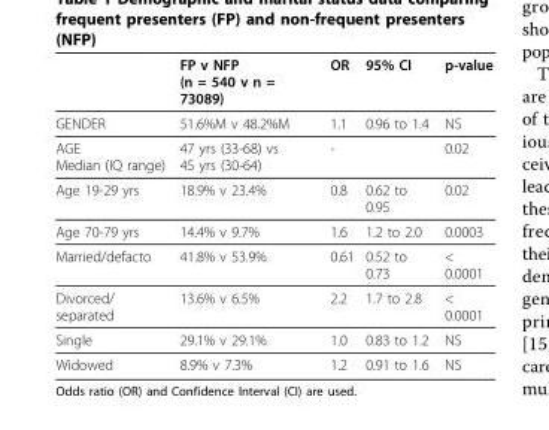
<table><thead><tr><td></td><td>FP v NFP (n = 540 v n = 73089)</td><td>OR</td><td>95% CI</td><td>p-value</td></tr></thead><tbody><tr><td>GENDER</td><td>51.6%M v 48.2%M</td><td>1.1</td><td>0.96 to 1.4</td><td>NS</td></tr><tr><td>AGE Median (IQ range)</td><td>47 yrs (33-68) vs 45 yrs (30-64)</td><td>-</td><td></td><td>0.02</td></tr><tr><td>Age 19-29 yrs</td><td>18.9% v 23.4%</td><td>0.8</td><td>0.62 to 0.95</td><td>0.02</td></tr><tr><td>Age 70-79 yrs</td><td>14.4% v 9.7%</td><td>1.6</td><td>1.2 to 2.0</td><td>0.0003</td></tr><tr><td>Married/defacto</td><td>41.8% v 53.9%</td><td>0.61</td><td>0.52 to 0.73</td><td>&lt; 0.0001</td></tr><tr><td>Divorced/ separated</td><td>13.6% v 6.5%</td><td>2.2</td><td>1.7 to 2.8</td><td>&lt; 0.0001</td></tr><tr><td>Single</td><td>29.1% v 29.1%</td><td>1.0</td><td>0.83 to 1.2</td><td>NS</td></tr><tr><td>Widowed</td><td>8.9% v 7.3%</td><td>1.2</td><td>0.91 to 1.6</td><td>NS</td></tr></tbody></table>